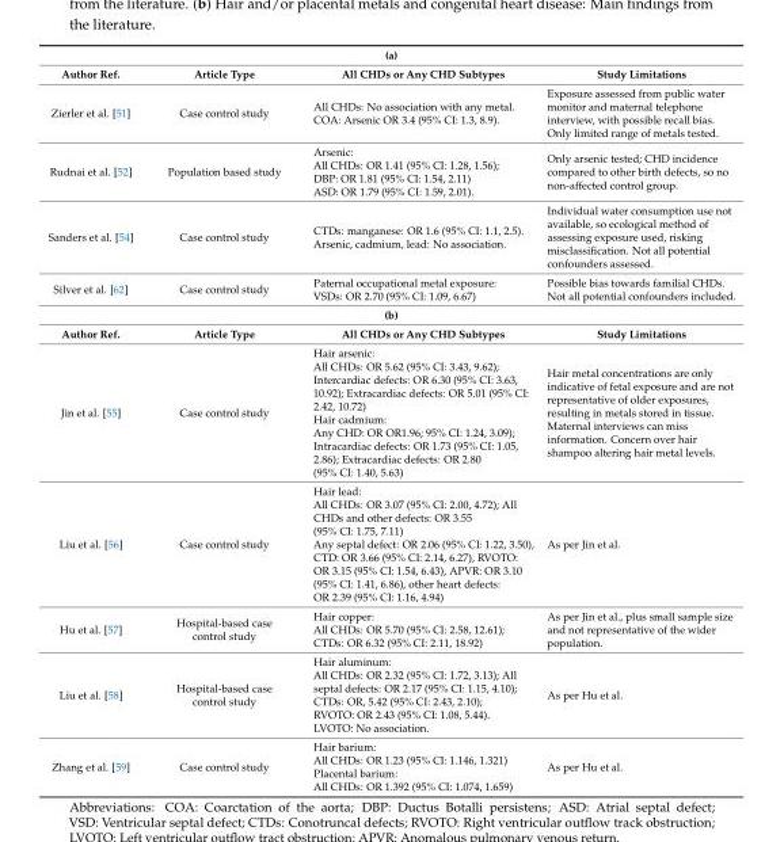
<table><tbody><tr><td colspan="4">(a)</td></tr><tr><td>Author Ref.</td><td>Article Type</td><td>All CHDs or Any CHD Subtypes</td><td>Study Limitations</td></tr><tr><td>Zierler et al. [51]</td><td>Case control study</td><td>All CHDs: No association with any metal. COA: Arsenic OR 3.4 (95% CI: 1.3, 8.9).</td><td>Exposure assessed from public water monitor and maternal telephone interview, with possible recall bias. Only limited range of metals tested.</td></tr><tr><td>Rudnai et al. [52]</td><td>Population based study</td><td>Arsenic: All CHDs: OR 1.41 (95% CI: 1.28, 1.56); DBP: OR 1.81 (95% CI: 1.54, 2.11) ASD: OR 1.79 (95% CI: 1.59, 2.01).</td><td>Only arsenic tested; CHD incidence compared to other birth defects, so no non-affected control group.</td></tr><tr><td>Sanders et al. [54]</td><td>Case control study</td><td>CTDs: manganese: OR 1.6 (95% CI: 1.1, 2.5). Arsenic, cadmium, lead: No association.</td><td>Individual water consumption use not available, so ecological method of assessing exposure used, risking misclassification. Not all potential confounders assessed.</td></tr><tr><td>Silver et al. [62]</td><td>Case control study</td><td>Paternal occupational metal exposure: VSDs: OR 2.70 (95% CI: 1.09, 6.67)</td><td>Possible bias towards familial CHDs. Not all potential confounders included.</td></tr><tr><td colspan="4">(b)</td></tr><tr><td>Author Ref.</td><td>Article Type</td><td>All CHDs or Any CHD Subtypes</td><td>Study Limitations</td></tr><tr><td>Jin et al. [55]</td><td>Case control study</td><td>Hair arsenic: All CHDs: OR 5.62 (95% CI: 3.43, 9.62); Intercardiac defects: OR 6.30 (95% CI: 3.63, 10.92); Extracardiac defects: OR 5.01 (95% CI: 2.42, 10.72) Hair cadmium: Any CHD: OR OR1.96; 95% CI: 1.24, 3.09); Intracardiac defects: OR 1.73 (95% CI: 1.05, 2.86); Extracardiac defects: OR 2.80 (95% CI: 1.40, 5.63)</td><td>Hair metal concentrations are only indicative of fetal exposure and are not representative of older exposures, resulting in metals stored in tissue. Maternal interviews can miss information. Concern over hair shampoo altering hair metal levels.</td></tr><tr><td>Liu et al. [56]</td><td>Case control study</td><td>Hair lead: All CHDs: OR 3.07 (95% CI: 2.00, 4.72); All CHDs and other defects: OR 3.55 (95% CI: 1.75, 7.11) Any septal defect: OR 2.06 (95% CI: 1.22, 3.50), CTD: OR 3.66 (95% CI: 2.14, 6.27), RVOTO: OR 3.15 (95% CI: 1.54, 6.43), APVR: OR 3.10 (95% CI: 1.41, 6.86), other heart defects: OR 2.39 (95% CI: 1.16, 4.94)</td><td>As per Jin et al.</td></tr><tr><td>Hu et al. [57]</td><td>Hospital-based case control study</td><td>Hair copper: All CHDs: OR 5.70 (95% CI: 2.58, 12.61); CTDs: OR 6.32 (95% CI: 2.11, 18.92)</td><td>As per Jin et al., plus small sample size and not representative of the wider population.</td></tr><tr><td>Liu et al. [58]</td><td>Hospital-based case control study</td><td>Hair aluminum: All CHDs: OR 2.32 (95% CI: 1.72, 3.13); All septal defects: OR 2.17 (95% CI: 1.15, 4.10); CTDs: OR, 5.42 (95% CI: 2.43, 2.10); RVOTO: OR 2.43 (95% CI: 1.08, 5.44). LVOTO: No association.</td><td>As per Hu et al.</td></tr><tr><td>Zhang et al. [59]</td><td>Case control study</td><td>Hair barium: All CHDs: OR 1.23 (95% CI: 1.146, 1.321) Placental barium: All CHDs: OR 1.392 (95% CI: 1.074, 1.659)</td><td>As per Hu et al.</td></tr></tbody></table>